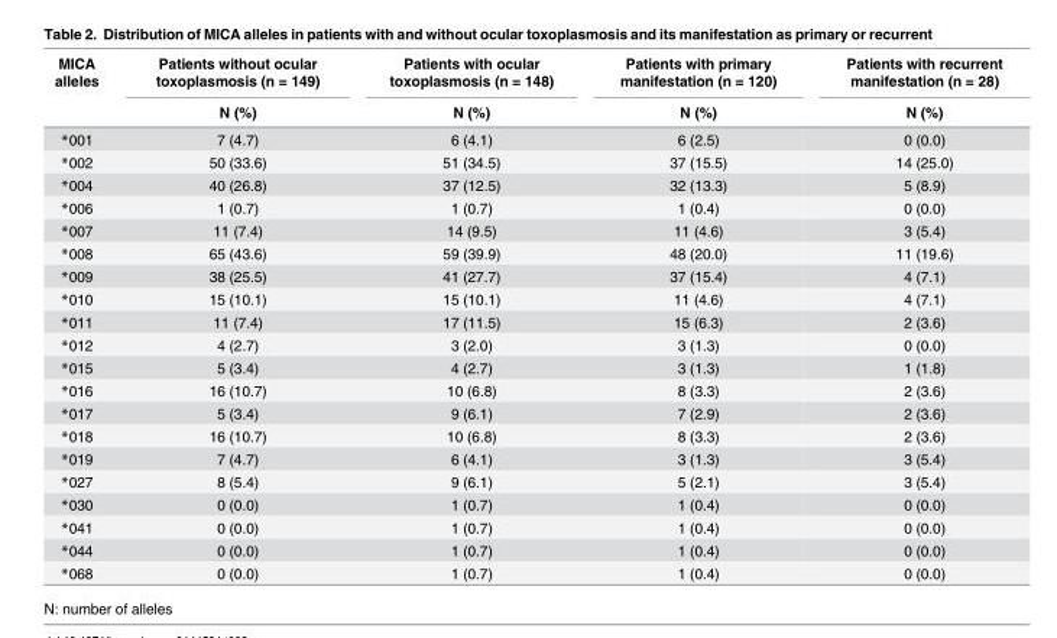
<table><thead><tr><td rowspan="2">MICA alleles</td><td rowspan="2">Patients without ocular toxoplasmosis (n = 149) N (%)</td><td rowspan="2">Patients with ocular toxoplasmosis (n = 148) N (%)</td><td rowspan="2">Patients with primary manifestation (n = 120) N (%)</td><td rowspan="2">Patients with recurrent manifestation (n = 28) N (%)</td></tr><tr></tr></thead><tbody><tr><td>*001</td><td>7 (4.7)</td><td>6 (4.1)</td><td>6 (2.5)</td><td>0 (0.0)</td></tr><tr><td>*002</td><td>50 (33.6)</td><td>51 (34.5)</td><td>37 (15.5)</td><td>14 (25.0)</td></tr><tr><td>*004</td><td>40 (26.8)</td><td>37 (12.5)</td><td>32 (13.3)</td><td>5 (8.9)</td></tr><tr><td>*006</td><td>1 (0.7)</td><td>1 (0.7)</td><td>1 (0.4)</td><td>0 (0.0)</td></tr><tr><td>*007</td><td>11 (7.4)</td><td>14 (9.5)</td><td>11 (4.6)</td><td>3 (5.4)</td></tr><tr><td>*008</td><td>65 (43.6)</td><td>59 (39.9)</td><td>48 (20.0)</td><td>11 (19.6)</td></tr><tr><td>*009</td><td>38 (25.5)</td><td>41 (27.7)</td><td>37 (15.4)</td><td>4 (7.1)</td></tr><tr><td>*010</td><td>15 (10.1)</td><td>15 (10.1)</td><td>11 (4.6)</td><td>4 (7.1)</td></tr><tr><td>*011</td><td>11 (7.4)</td><td>17 (11.5)</td><td>15 (6.3)</td><td>2 (3.6)</td></tr><tr><td>*012</td><td>4 (2.7)</td><td>3 (2.0)</td><td>3 (1.3)</td><td>0 (0.0)</td></tr><tr><td>*015</td><td>5 (3.4)</td><td>4 (2.7)</td><td>3 (1.3)</td><td>1 (1.8)</td></tr><tr><td>*016</td><td>16 (10.7)</td><td>10 (6.8)</td><td>8 (3.3)</td><td>2 (3.6)</td></tr><tr><td>*017</td><td>5 (3.4)</td><td>9 (6.1)</td><td>7 (2.9)</td><td>2 (3.6)</td></tr><tr><td>*018</td><td>16 (10.7)</td><td>10 (6.8)</td><td>8 (3.3)</td><td>2 (3.6)</td></tr><tr><td>*019</td><td>7 (4.7)</td><td>6 (4.1)</td><td>3 (1.3)</td><td>3 (5.4)</td></tr><tr><td>*027</td><td>8 (5.4)</td><td>9 (6.1)</td><td>5 (2.1)</td><td>3 (5.4)</td></tr><tr><td>*030</td><td>0 (0.0)</td><td>1 (0.7)</td><td>1 (0.4)</td><td>0 (0.0)</td></tr><tr><td>*041</td><td>0 (0.0)</td><td>1 (0.7)</td><td>1 (0.4)</td><td>0 (0.0)</td></tr><tr><td>*044</td><td>0 (0.0)</td><td>1 (0.7)</td><td>1 (0.4)</td><td>0 (0.0)</td></tr><tr><td>*068</td><td>0 (0.0)</td><td>1 (0.7)</td><td>1 (0.4)</td><td>0 (0.0)</td></tr></tbody></table>